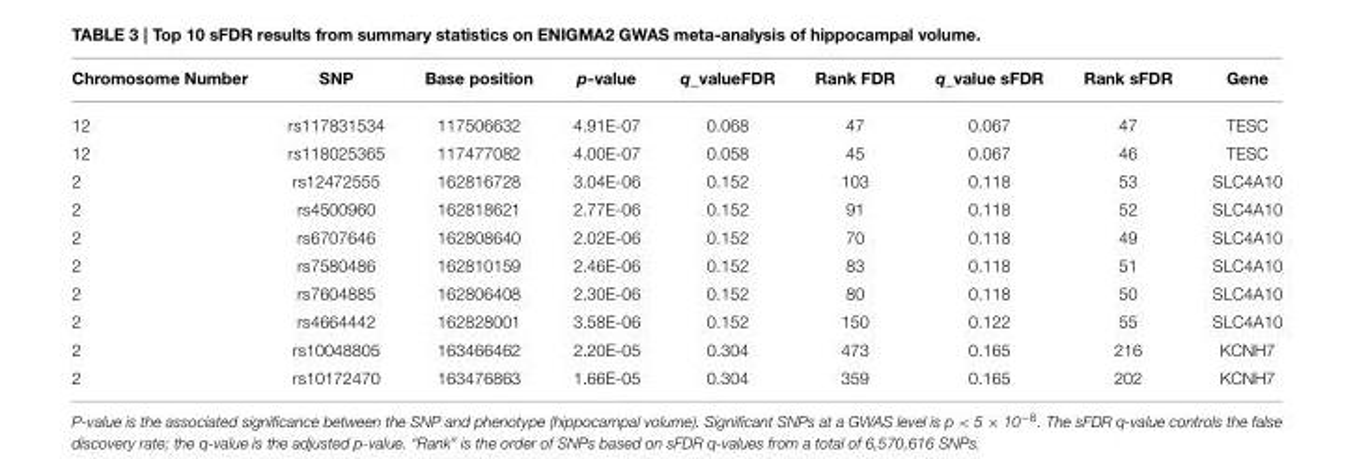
<table><thead><tr><td>Chromosome Number</td><td>SNP</td><td>Base position</td><td>p-value</td><td>q_valueFDR</td><td>Rank FDR</td><td>q_value sFDR</td><td>Rank sFDR</td><td>Gene</td></tr></thead><tbody><tr><td>12</td><td>rs117831534</td><td>117506632</td><td>4.91E-07</td><td>0.068</td><td>47</td><td>0.067</td><td>47</td><td>TESC</td></tr><tr><td>12</td><td>rs118025365</td><td>117477082</td><td>4.00E-07</td><td>0.058</td><td>45</td><td>0.067</td><td>46</td><td>TESC</td></tr><tr><td>2</td><td>rs12472555</td><td>162816728</td><td>3.04E-06</td><td>0.152</td><td>103</td><td>0.118</td><td>53</td><td>SLC4A10</td></tr><tr><td>2</td><td>rs4500960</td><td>162818621</td><td>2.77E-06</td><td>0.152</td><td>91</td><td>0.118</td><td>52</td><td>SLC4A10</td></tr><tr><td>2</td><td>rs6707646</td><td>162808640</td><td>2.02E-06</td><td>0.152</td><td>70</td><td>0.118</td><td>49</td><td>SLC4A10</td></tr><tr><td>2</td><td>rs7580486</td><td>162810159</td><td>2.46E-06</td><td>0.152</td><td>83</td><td>0.118</td><td>51</td><td>SLC4A10</td></tr><tr><td>2</td><td>rs7604885</td><td>162806408</td><td>2.30E-06</td><td>0.152</td><td>80</td><td>0.118</td><td>50</td><td>SLC4A10</td></tr><tr><td>2</td><td>rs4664442</td><td>162828001</td><td>3.58E-06</td><td>0.152</td><td>150</td><td>0.122</td><td>55</td><td>SLC4A10</td></tr><tr><td>2</td><td>rs10048805</td><td>163466462</td><td>2.20E-05</td><td>0.304</td><td>473</td><td>0.165</td><td>216</td><td>KCNH7</td></tr><tr><td>2</td><td>rs10172470</td><td>163476863</td><td>1.66E-05</td><td>0.304</td><td>359</td><td>0.165</td><td>202</td><td>KCNH7</td></tr></tbody></table>